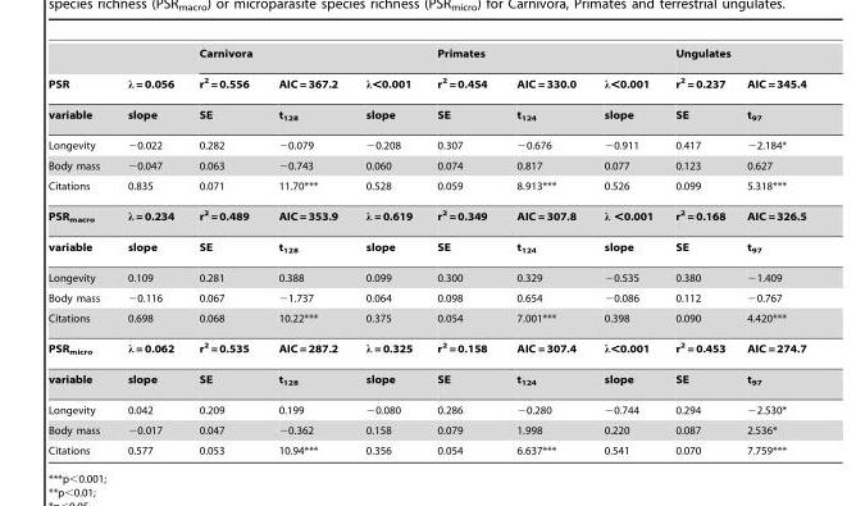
<table><thead><tr><td rowspan="2">PSR</td><td rowspan="2">λ = 0.056</td><td colspan="3">Carnivora</td><td colspan="3">Primates</td><td colspan="2">Ungulates</td></tr><tr><td>r<sup>2</sup> = 0.556</td><td>AIC = 367.2</td><td>λ&lt;0.001</td><td>r<sup>2</sup> = 0.454</td><td>AIC = 330.0</td><td>λ&lt;0.001</td><td>r<sup>2</sup> = 0.237</td><td>AIC = 345.4</td></tr></thead><tbody><tr><td>variable</td><td>slope</td><td>SE</td><td>t<sub>128</sub></td><td>slope</td><td>SE</td><td>t<sub>124</sub></td><td>slope</td><td>SE</td><td>t<sub>97</sub></td></tr><tr><td>Longevity</td><td>−0.022</td><td>0.282</td><td>−0.079</td><td>−0.208</td><td>0.307</td><td>−0.676</td><td>−0.911</td><td>0.417</td><td>−2.184*</td></tr><tr><td>Body mass</td><td>−0.047</td><td>0.063</td><td>−0.743</td><td>0.060</td><td>0.074</td><td>0.817</td><td>0.077</td><td>0.123</td><td>0.627</td></tr><tr><td>Citations</td><td>0.835</td><td>0.071</td><td>11.70***</td><td>0.528</td><td>0.059</td><td>8.913***</td><td>0.526</td><td>0.099</td><td>5.318***</td></tr><tr><td>PSR<sub>macro</sub></td><td>λ = 0.234</td><td>r<sup>2</sup> = 0.489</td><td>AIC = 353.9</td><td>λ = 0.619</td><td>r<sup>2</sup> = 0.349</td><td>AIC = 307.8</td><td>λ &lt;0.001</td><td>r<sup>2</sup> = 0.168</td><td>AIC = 326.5</td></tr><tr><td>variable</td><td>slope</td><td>SE</td><td>t<sub>128</sub></td><td>slope</td><td>SE</td><td>t<sub>124</sub></td><td>slope</td><td>SE</td><td>t<sub>97</sub></td></tr><tr><td>Longevity</td><td>0.109</td><td>0.281</td><td>0.388</td><td>0.099</td><td>0.300</td><td>0.329</td><td>−0.535</td><td>0.380</td><td>−1.409</td></tr><tr><td>Body mass</td><td>−0.116</td><td>0.067</td><td>−1.737</td><td>0.064</td><td>0.098</td><td>0.654</td><td>−0.086</td><td>0.112</td><td>−0.767</td></tr><tr><td>Citations</td><td>0.698</td><td>0.068</td><td>10.22***</td><td>0.375</td><td>0.054</td><td>7.001***</td><td>0.398</td><td>0.090</td><td>4.420***</td></tr><tr><td>PSR<sub>micro</sub></td><td>λ = 0.062</td><td>r<sup>2</sup> = 0.535</td><td>AIC = 287.2</td><td>λ = 0.325</td><td>r<sup>2</sup> = 0.158</td><td>AIC = 307.4</td><td>λ&lt;0.001</td><td>r<sup>2</sup> = 0.453</td><td>AIC = 274.7</td></tr><tr><td>variable</td><td>slope</td><td>SE</td><td>t<sub>128</sub></td><td>slope</td><td>SE</td><td>t<sub>124</sub></td><td>slope</td><td>SE</td><td>t<sub>97</sub></td></tr><tr><td>Longevity</td><td>0.042</td><td>0.209</td><td>0.199</td><td>−0.080</td><td>0.286</td><td>−0.280</td><td>−0.744</td><td>0.294</td><td>−2.530*</td></tr><tr><td>Body mass</td><td>−0.017</td><td>0.047</td><td>−0.362</td><td>0.158</td><td>0.079</td><td>1.998</td><td>0.220</td><td>0.087</td><td>2.536*</td></tr><tr><td>Citations</td><td>0.577</td><td>0.053</td><td>10.94***</td><td>0.356</td><td>0.054</td><td>6.637***</td><td>0.541</td><td>0.070</td><td>7.759***</td></tr></tbody></table>